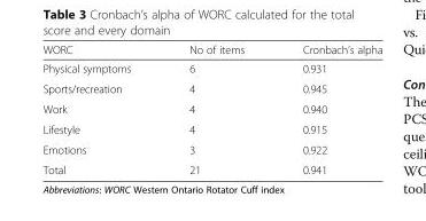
<table><thead><tr><td>WORC</td><td>No of items</td><td>Cronbach’s alpha</td></tr></thead><tbody><tr><td>Physical symptoms</td><td>6</td><td>0.931</td></tr><tr><td>Sports/recreation</td><td>4</td><td>0.945</td></tr><tr><td>Work</td><td>4</td><td>0.940</td></tr><tr><td>Lifestyle</td><td>4</td><td>0.915</td></tr><tr><td>Emotions</td><td>3</td><td>0.922</td></tr><tr><td>Total</td><td>21</td><td>0.941</td></tr></tbody></table>